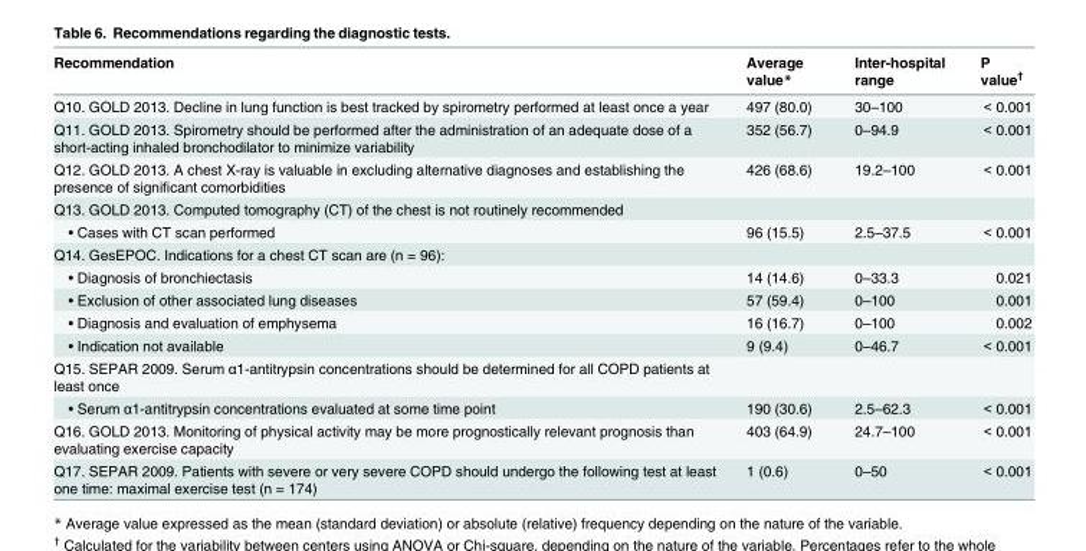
<table><thead><tr><td>Recommendation</td><td>Average value*</td><td>Inter-hospital range</td><td>P value<sup>†</sup></td></tr></thead><tbody><tr><td>Q10. GOLD 2013. Decline in lung function is best tracked by spirometry performed at least once a year</td><td>497 (80.0)</td><td>30–100</td><td>&lt; 0.001</td></tr><tr><td>Q11. GOLD 2013. Spirometry should be performed after the administration of an adequate dose of a short-acting inhaled bronchodilator to minimize variability</td><td>352 (56.7)</td><td>0–94.9</td><td>&lt; 0.001</td></tr><tr><td>Q12. GOLD 2013. A chest X-ray is valuable in excluding alternative diagnoses and establishing the presence of significant comorbidities</td><td>426 (68.6)</td><td>19.2–100</td><td>&lt; 0.001</td></tr><tr><td colspan="4">Q13. GOLD 2013. Computed tomography (CT) of the chest is not routinely recommended</td></tr><tr><td>• Cases with CT scan performed</td><td>96 (15.5)</td><td>2.5–37.5</td><td>&lt; 0.001</td></tr><tr><td colspan="4">Q14. GesEPOC. Indications for a chest CT scan are (n = 96):</td></tr><tr><td>• Diagnosis of bronchiectasis</td><td>14 (14.6)</td><td>0–33.3</td><td>0.021</td></tr><tr><td>• Exclusion of other associated lung diseases</td><td>57 (59.4)</td><td>0–100</td><td>0.001</td></tr><tr><td>• Diagnosis and evaluation of emphysema</td><td>16 (16.7)</td><td>0–100</td><td>0.002</td></tr><tr><td>• Indication not available</td><td>9 (9.4)</td><td>0–46.7</td><td>&lt; 0.001</td></tr><tr><td colspan="4">Q15. SEPAR 2009. Serum α1-antitrypsin concentrations should be determined for all COPD patients at least once</td></tr><tr><td>• Serum α1-antitrypsin concentrations evaluated at some time point</td><td>190 (30.6)</td><td>2.5–62.3</td><td>&lt; 0.001</td></tr><tr><td>Q16. GOLD 2013. Monitoring of physical activity may be more prognostically relevant prognosis than evaluating exercise capacity</td><td>403 (64.9)</td><td>24.7–100</td><td>&lt; 0.001</td></tr><tr><td>Q17. SEPAR 2009. Patients with severe or very severe COPD should undergo the following test at least one time: maximal exercise test (n = 174)</td><td>1 (0.6)</td><td>0–50</td><td>&lt; 0.001</td></tr></tbody></table>